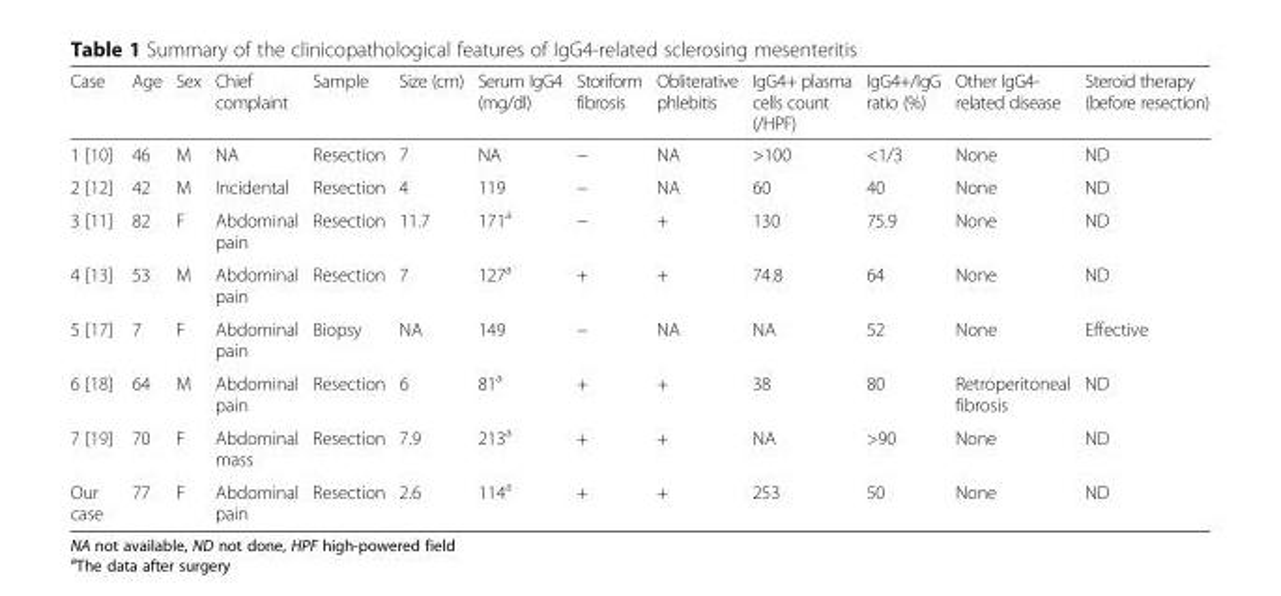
<table><thead><tr><td>Case</td><td>Age</td><td>Sex</td><td>Chief complaint</td><td>Sample</td><td>Size (cm)</td><td>Serum IgG4 (mg/dl)</td><td>Storiform fibrosis</td><td>Obliterative phlebitis</td><td>IgG4+ plasma cells count (/HPF)</td><td>IgG4+/IgG ratio (%)</td><td>Other IgG4- related disease</td><td>Steroid therapy (before resection)</td></tr></thead><tbody><tr><td>1 [10]</td><td>46</td><td>M</td><td>NA</td><td>Resection</td><td>7</td><td>NA</td><td>−</td><td>NA</td><td>&gt;100</td><td>&lt;1/3</td><td>None</td><td>ND</td></tr><tr><td>2 [12]</td><td>42</td><td>M</td><td>Incidental</td><td>Resection</td><td>4</td><td>119</td><td>−</td><td>NA</td><td>60</td><td>40</td><td>None</td><td>ND</td></tr><tr><td>3 [11]</td><td>82</td><td>F</td><td>Abdominal pain</td><td>Resection</td><td>11.7</td><td>171<sup>a</sup></td><td>−</td><td>+</td><td>130</td><td>75.9</td><td>None</td><td>ND</td></tr><tr><td>4 [13]</td><td>53</td><td>M</td><td>Abdominal pain</td><td>Resection</td><td>7</td><td>127<sup>a</sup></td><td>+</td><td>+</td><td>74.8</td><td>64</td><td>None</td><td>ND</td></tr><tr><td>5 [17]</td><td>7</td><td>F</td><td>Abdominal pain</td><td>Biopsy</td><td>NA</td><td>149</td><td>−</td><td>NA</td><td>NA</td><td>52</td><td>None</td><td>Effective</td></tr><tr><td>6 [18]</td><td>64</td><td>M</td><td>Abdominal pain</td><td>Resection</td><td>6</td><td>81<sup>a</sup></td><td>+</td><td>+</td><td>38</td><td>80</td><td>Retroperitoneal fibrosis</td><td>ND</td></tr><tr><td>7 [19]</td><td>70</td><td>F</td><td>Abdominal mass</td><td>Resection</td><td>7.9</td><td>213<sup>a</sup></td><td>+</td><td>+</td><td>NA</td><td>&gt;90</td><td>None</td><td>ND</td></tr><tr><td>Our case</td><td>77</td><td>F</td><td>Abdominal pain</td><td>Resection</td><td>2.6</td><td>114<sup>a</sup></td><td>+</td><td>+</td><td>253</td><td>50</td><td>None</td><td>ND</td></tr></tbody></table>